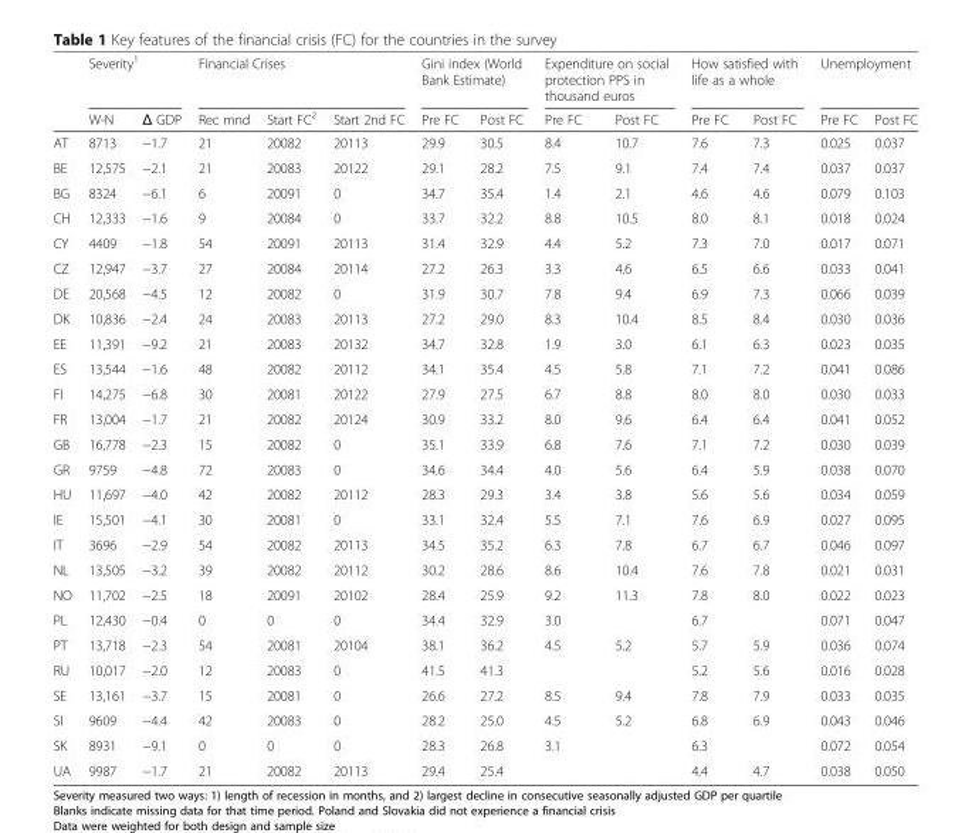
<table><thead><tr><td rowspan="2"></td><td colspan="2">Severity<sup>1</sup></td><td colspan="3">Financial Crises</td><td colspan="2">Gini index (World Bank Estimate)</td><td colspan="2">Expenditure on social protection PPS in thousand euros</td><td colspan="2">How satisfied with life as a whole</td><td colspan="2">Unemployment</td></tr><tr><td>W-N</td><td>Δ GDP</td><td>Rec mnd</td><td>Start FC<sup>2</sup></td><td>Start 2nd FC</td><td>Pre FC</td><td>Post FC</td><td>Pre FC</td><td>Post FC</td><td>Pre FC</td><td>Post FC</td><td>Pre FC</td><td>Post FC</td></tr></thead><tbody><tr><td>AT</td><td>8713</td><td>−1.7</td><td>21</td><td>20082</td><td>20113</td><td>29.9</td><td>30.5</td><td>8.4</td><td>10.7</td><td>7.6</td><td>7.3</td><td>0.025</td><td>0.037</td></tr><tr><td>BE</td><td>12,575</td><td>−2.1</td><td>21</td><td>20083</td><td>20122</td><td>29.1</td><td>28.2</td><td>7.5</td><td>9.1</td><td>7.4</td><td>7.4</td><td>0.037</td><td>0.037</td></tr><tr><td>BG</td><td>8324</td><td>−6.1</td><td>6</td><td>20091</td><td>0</td><td>34.7</td><td>35.4</td><td>1.4</td><td>2.1</td><td>4.6</td><td>4.6</td><td>0.079</td><td>0.103</td></tr><tr><td>CH</td><td>12,333</td><td>−1.6</td><td>9</td><td>20084</td><td>0</td><td>33.7</td><td>32.2</td><td>8.8</td><td>10.5</td><td>8.0</td><td>8.1</td><td>0.018</td><td>0.024</td></tr><tr><td>CY</td><td>4409</td><td>−1.8</td><td>54</td><td>20091</td><td>20113</td><td>31.4</td><td>32.9</td><td>4.4</td><td>5.2</td><td>7.3</td><td>7.0</td><td>0.017</td><td>0.071</td></tr><tr><td>CZ</td><td>12,947</td><td>−3.7</td><td>27</td><td>20084</td><td>20114</td><td>27.2</td><td>26.3</td><td>3.3</td><td>4.6</td><td>6.5</td><td>6.6</td><td>0.033</td><td>0.041</td></tr><tr><td>DE</td><td>20,568</td><td>−4.5</td><td>12</td><td>20082</td><td>0</td><td>31.9</td><td>30.7</td><td>7.8</td><td>9.4</td><td>6.9</td><td>7.3</td><td>0.066</td><td>0.039</td></tr><tr><td>DK</td><td>10,836</td><td>−2.4</td><td>24</td><td>20083</td><td>20113</td><td>27.2</td><td>29.0</td><td>8.3</td><td>10.4</td><td>8.5</td><td>8.4</td><td>0.030</td><td>0.036</td></tr><tr><td>EE</td><td>11,391</td><td>−9.2</td><td>21</td><td>20083</td><td>20132</td><td>34.7</td><td>32.8</td><td>1.9</td><td>3.0</td><td>6.1</td><td>6.3</td><td>0.023</td><td>0.035</td></tr><tr><td>ES</td><td>13,544</td><td>−1.6</td><td>48</td><td>20082</td><td>20112</td><td>34.1</td><td>35.4</td><td>4.5</td><td>5.8</td><td>7.1</td><td>7.2</td><td>0.041</td><td>0.086</td></tr><tr><td>FI</td><td>14,275</td><td>−6.8</td><td>30</td><td>20081</td><td>20122</td><td>27.9</td><td>27.5</td><td>6.7</td><td>8.8</td><td>8.0</td><td>8.0</td><td>0.030</td><td>0.033</td></tr><tr><td>FR</td><td>13,004</td><td>−1.7</td><td>21</td><td>20082</td><td>20124</td><td>30.9</td><td>33.2</td><td>8.0</td><td>9.6</td><td>6.4</td><td>6.4</td><td>0.041</td><td>0.052</td></tr><tr><td>GB</td><td>16,778</td><td>−2.3</td><td>15</td><td>20082</td><td>0</td><td>35.1</td><td>33.9</td><td>6.8</td><td>7.6</td><td>7.1</td><td>7.2</td><td>0.030</td><td>0.039</td></tr><tr><td>GR</td><td>9759</td><td>−4.8</td><td>72</td><td>20083</td><td>0</td><td>34.6</td><td>34.4</td><td>4.0</td><td>5.6</td><td>6.4</td><td>5.9</td><td>0.038</td><td>0.070</td></tr><tr><td>HU</td><td>11,697</td><td>−4.0</td><td>42</td><td>20082</td><td>20112</td><td>28.3</td><td>29.3</td><td>3.4</td><td>3.8</td><td>5.6</td><td>5.6</td><td>0.034</td><td>0.059</td></tr><tr><td>IE</td><td>15,501</td><td>−4.1</td><td>30</td><td>20081</td><td>0</td><td>33.1</td><td>32.4</td><td>5.5</td><td>7.1</td><td>7.6</td><td>6.9</td><td>0.027</td><td>0.095</td></tr><tr><td>IT</td><td>3696</td><td>−2.9</td><td>54</td><td>20082</td><td>20113</td><td>34.5</td><td>35.2</td><td>6.3</td><td>7.8</td><td>6.7</td><td>6.7</td><td>0.046</td><td>0.097</td></tr><tr><td>NL</td><td>13,505</td><td>−3.2</td><td>39</td><td>20082</td><td>20112</td><td>30.2</td><td>28.6</td><td>8.6</td><td>10.4</td><td>7.6</td><td>7.8</td><td>0.021</td><td>0.031</td></tr><tr><td>NO</td><td>11,702</td><td>−2.5</td><td>18</td><td>20091</td><td>20102</td><td>28.4</td><td>25.9</td><td>9.2</td><td>11.3</td><td>7.8</td><td>8.0</td><td>0.022</td><td>0.023</td></tr><tr><td>PL</td><td>12,430</td><td>−0.4</td><td>0</td><td>0</td><td>0</td><td>34.4</td><td>32.9</td><td>3.0</td><td></td><td>6.7</td><td></td><td>0.071</td><td>0.047</td></tr><tr><td>PT</td><td>13,718</td><td>−2.3</td><td>54</td><td>20081</td><td>20104</td><td>38.1</td><td>36.2</td><td>4.5</td><td>5.2</td><td>5.7</td><td>5.9</td><td>0.036</td><td>0.074</td></tr><tr><td>RU</td><td>10,017</td><td>−2.0</td><td>12</td><td>20083</td><td>0</td><td>41.5</td><td>41.3</td><td></td><td></td><td>5.2</td><td>5.6</td><td>0.016</td><td>0.028</td></tr><tr><td>SE</td><td>13,161</td><td>−3.7</td><td>15</td><td>20081</td><td>0</td><td>26.6</td><td>27.2</td><td>8.5</td><td>9.4</td><td>7.8</td><td>7.9</td><td>0.033</td><td>0.035</td></tr><tr><td>SI</td><td>9609</td><td>−4.4</td><td>42</td><td>20083</td><td>0</td><td>28.2</td><td>25.0</td><td>4.5</td><td>5.2</td><td>6.8</td><td>6.9</td><td>0.043</td><td>0.046</td></tr><tr><td>SK</td><td>8931</td><td>−9.1</td><td>0</td><td>0</td><td>0</td><td>28.3</td><td>26.8</td><td>3.1</td><td></td><td>6.3</td><td></td><td>0.072</td><td>0.054</td></tr><tr><td>UA</td><td>9987</td><td>−1.7</td><td>21</td><td>20082</td><td>20113</td><td>29.4</td><td>25.4</td><td></td><td></td><td>4.4</td><td>4.7</td><td>0.038</td><td>0.050</td></tr></tbody></table>